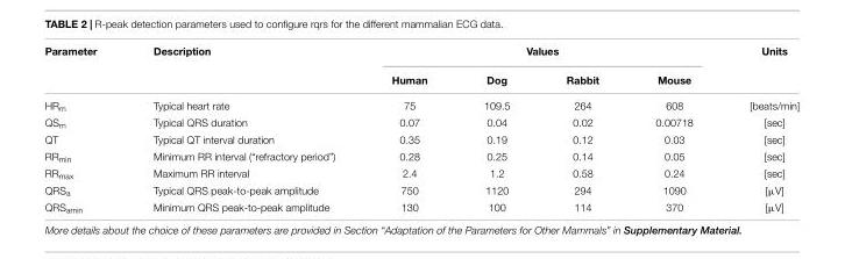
<table><thead><tr><td rowspan="2">Parameter</td><td rowspan="2">Description</td><td colspan="4">Values</td><td rowspan="2">Units</td></tr><tr><td>Human</td><td>Dog</td><td>Rabbit</td><td>Mouse</td></tr></thead><tbody><tr><td>HR<sub>m</sub></td><td>Typical heart rate</td><td>75</td><td>109.5</td><td>264</td><td>608</td><td>[beats/min]</td></tr><tr><td>QS<sub>m</sub></td><td>Typical QRS duration</td><td>0.07</td><td>0.04</td><td>0.02</td><td>0.00718</td><td>[sec]</td></tr><tr><td>QT</td><td>Typical QT interval duration</td><td>0.35</td><td>0.19</td><td>0.12</td><td>0.03</td><td>[sec]</td></tr><tr><td>RR<sub>min</sub></td><td>Minimum RR interval (“refractory period”)</td><td>0.28</td><td>0.25</td><td>0.14</td><td>0.05</td><td>[sec]</td></tr><tr><td>RR<sub>max</sub></td><td>Maximum RR interval</td><td>2.4</td><td>1.2</td><td>0.58</td><td>0.24</td><td>[sec]</td></tr><tr><td>QRS<sub>a</sub></td><td>Typical QRS peak-to-peak amplitude</td><td>750</td><td>1120</td><td>294</td><td>1090</td><td>[µV]</td></tr><tr><td>QRS<sub>amin</sub></td><td>Minimum QRS peak-to-peak amplitude</td><td>130</td><td>100</td><td>114</td><td>370</td><td>[µV]</td></tr></tbody></table>